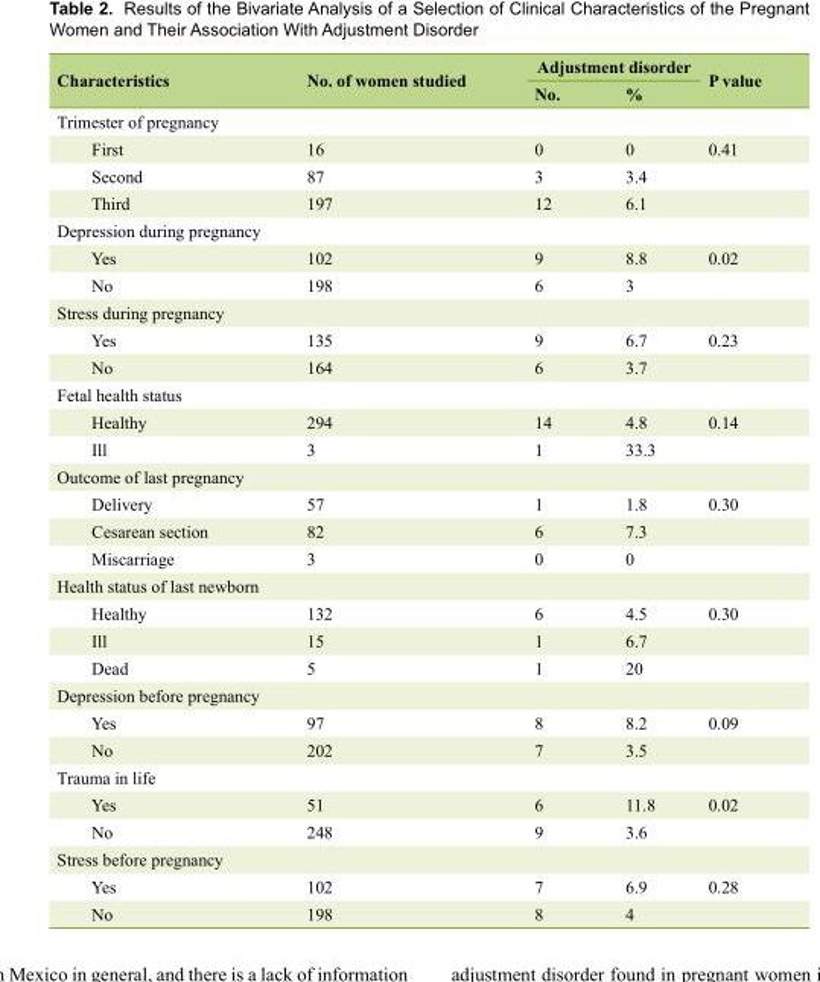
<table><thead><tr><td rowspan="2">Characteristics</td><td rowspan="2">No. of women studied</td><td colspan="2">Adjustment disorder</td><td rowspan="2">P value</td></tr><tr><td>No.</td><td>%</td></tr></thead><tbody><tr><td colspan="5">Trimester of pregnancy</td></tr><tr><td>First</td><td>16</td><td>0</td><td>0</td><td>0.41</td></tr><tr><td>Second</td><td>87</td><td>3</td><td>3.4</td><td></td></tr><tr><td>Third</td><td>197</td><td>12</td><td>6.1</td><td></td></tr><tr><td colspan="5">Depression during pregnancy</td></tr><tr><td>Yes</td><td>102</td><td>9</td><td>8.8</td><td>0.02</td></tr><tr><td>No</td><td>198</td><td>6</td><td>3</td><td></td></tr><tr><td colspan="5">Stress during pregnancy</td></tr><tr><td>Yes</td><td>135</td><td>9</td><td>6.7</td><td>0.23</td></tr><tr><td>No</td><td>164</td><td>6</td><td>3.7</td><td></td></tr><tr><td colspan="5">Fetal health status</td></tr><tr><td>Healthy</td><td>294</td><td>14</td><td>4.8</td><td>0.14</td></tr><tr><td>Ill</td><td>3</td><td>1</td><td>33.3</td><td></td></tr><tr><td colspan="5">Outcome of last pregnancy</td></tr><tr><td>Delivery</td><td>57</td><td>1</td><td>1.8</td><td>0.30</td></tr><tr><td>Cesarean section</td><td>82</td><td>6</td><td>7.3</td><td></td></tr><tr><td>Miscarriage</td><td>3</td><td>0</td><td>0</td><td></td></tr><tr><td colspan="5">Health status of last newborn</td></tr><tr><td>Healthy</td><td>132</td><td>6</td><td>4.5</td><td>0.30</td></tr><tr><td>Ill</td><td>15</td><td>1</td><td>6.7</td><td></td></tr><tr><td>Dead</td><td>5</td><td>1</td><td>20</td><td></td></tr><tr><td colspan="5">Depression before pregnancy</td></tr><tr><td>Yes</td><td>97</td><td>8</td><td>8.2</td><td>0.09</td></tr><tr><td>No</td><td>202</td><td>7</td><td>3.5</td><td></td></tr><tr><td colspan="5">Trauma in life</td></tr><tr><td>Yes</td><td>51</td><td>6</td><td>11.8</td><td>0.02</td></tr><tr><td>No</td><td>248</td><td>9</td><td>3.6</td><td></td></tr><tr><td colspan="5">Stress before pregnancy</td></tr><tr><td>Yes</td><td>102</td><td>7</td><td>6.9</td><td>0.28</td></tr><tr><td>No</td><td>198</td><td>8</td><td>4</td><td></td></tr></tbody></table>